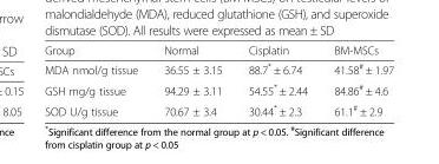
<table><thead><tr><td>Group</td><td>Normal</td><td>Cisplatin</td><td>BM-MSCs</td></tr></thead><tbody><tr><td>MDA nmol/g tissue</td><td>36.55 ± 3.15</td><td>88.7* ± 6.74</td><td>41.58<sup>#</sup> ± 1.97</td></tr><tr><td>GSH mg/g tissue</td><td>94.29 ± 3.11</td><td>54.55* ± 2.44</td><td>84.86<sup>#</sup> ± 4.6</td></tr><tr><td>SOD U/g tissue</td><td>70.67 ± 3.4</td><td>30.44* ± 2.3</td><td>61.1<sup>#</sup> ± 2.9</td></tr></tbody></table>